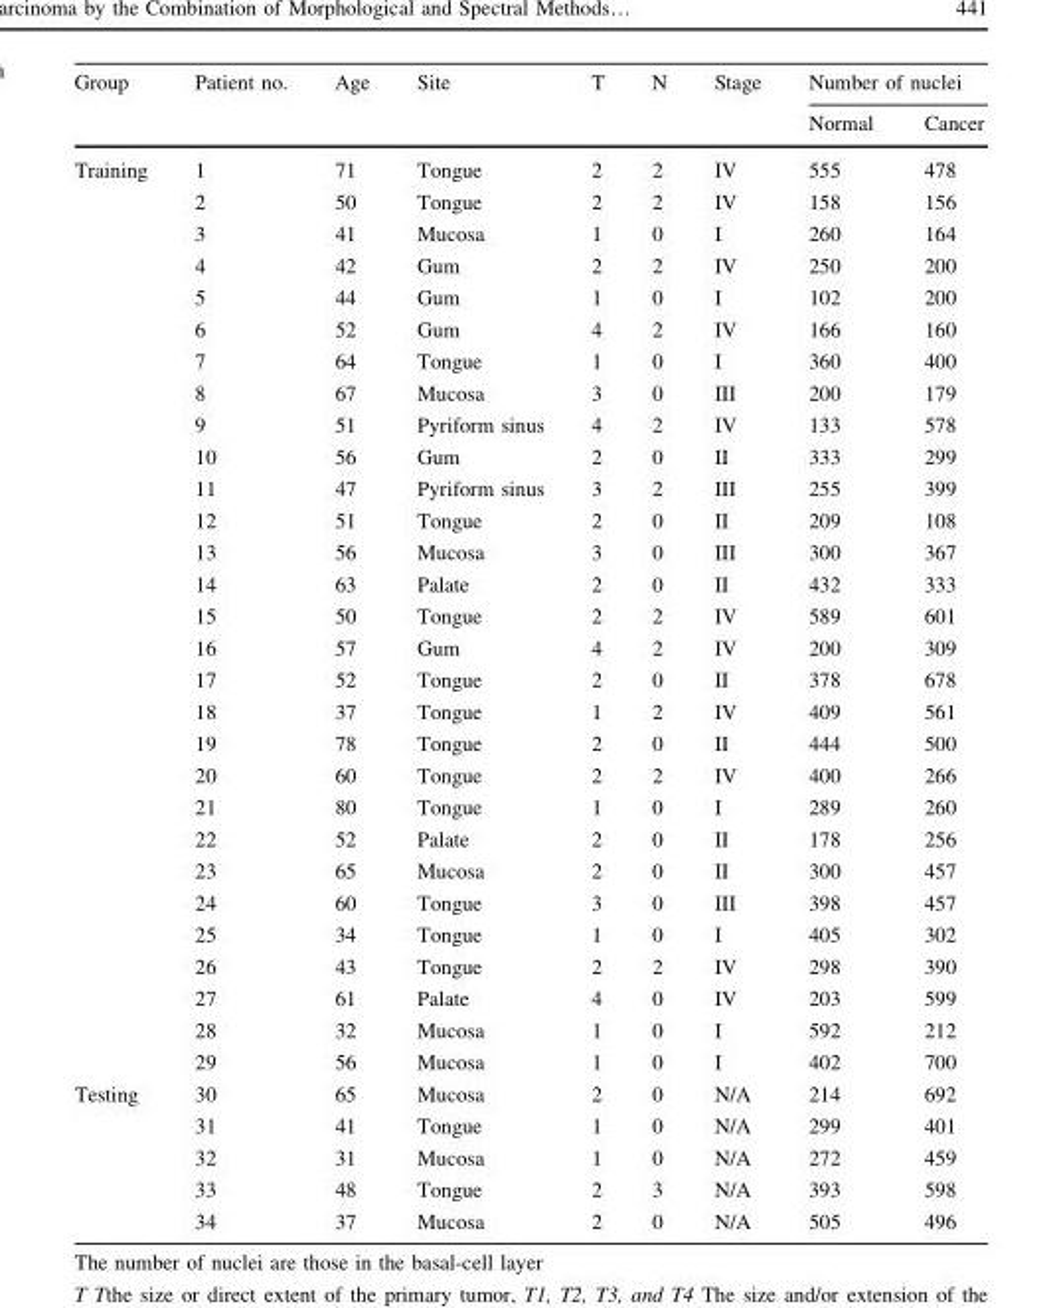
<table><thead><tr><td rowspan="2">Group</td><td rowspan="2">Patient no.</td><td rowspan="2">Age</td><td rowspan="2">Site</td><td rowspan="2">T</td><td rowspan="2">N</td><td rowspan="2">Stage</td><td colspan="2">Number of nuclei</td></tr><tr><td>Normal</td><td>Cancer</td></tr></thead><tbody><tr><td rowspan="29">Training</td><td>1</td><td>71</td><td>Tongue</td><td>2</td><td>2</td><td>IV</td><td>555</td><td>478</td></tr><tr><td>2</td><td>50</td><td>Tongue</td><td>2</td><td>2</td><td>IV</td><td>158</td><td>156</td></tr><tr><td>3</td><td>41</td><td>Mucosa</td><td>1</td><td>0</td><td>I</td><td>260</td><td>164</td></tr><tr><td>4</td><td>42</td><td>Gum</td><td>2</td><td>2</td><td>IV</td><td>250</td><td>200</td></tr><tr><td>5</td><td>44</td><td>Gum</td><td>1</td><td>0</td><td>I</td><td>102</td><td>200</td></tr><tr><td>6</td><td>52</td><td>Gum</td><td>4</td><td>2</td><td>IV</td><td>166</td><td>160</td></tr><tr><td>7</td><td>64</td><td>Tongue</td><td>1</td><td>0</td><td>I</td><td>360</td><td>400</td></tr><tr><td>8</td><td>67</td><td>Mucosa</td><td>3</td><td>0</td><td>III</td><td>200</td><td>179</td></tr><tr><td>9</td><td>51</td><td>Pyriform sinus</td><td>4</td><td>2</td><td>IV</td><td>133</td><td>578</td></tr><tr><td>10</td><td>56</td><td>Gum</td><td>2</td><td>0</td><td>II</td><td>333</td><td>299</td></tr><tr><td>11</td><td>47</td><td>Pyriform sinus</td><td>3</td><td>2</td><td>III</td><td>255</td><td>399</td></tr><tr><td>12</td><td>51</td><td>Tongue</td><td>2</td><td>0</td><td>II</td><td>209</td><td>108</td></tr><tr><td>13</td><td>56</td><td>Mucosa</td><td>3</td><td>0</td><td>III</td><td>300</td><td>367</td></tr><tr><td>14</td><td>63</td><td>Palate</td><td>2</td><td>0</td><td>II</td><td>432</td><td>333</td></tr><tr><td>15</td><td>50</td><td>Tongue</td><td>2</td><td>2</td><td>IV</td><td>589</td><td>601</td></tr><tr><td>16</td><td>57</td><td>Gum</td><td>4</td><td>2</td><td>IV</td><td>200</td><td>309</td></tr><tr><td>17</td><td>52</td><td>Tongue</td><td>2</td><td>0</td><td>II</td><td>378</td><td>678</td></tr><tr><td>18</td><td>37</td><td>Tongue</td><td>1</td><td>2</td><td>IV</td><td>409</td><td>561</td></tr><tr><td>19</td><td>78</td><td>Tongue</td><td>2</td><td>0</td><td>II</td><td>444</td><td>500</td></tr><tr><td>20</td><td>60</td><td>Tongue</td><td>2</td><td>2</td><td>IV</td><td>400</td><td>266</td></tr><tr><td>21</td><td>80</td><td>Tongue</td><td>1</td><td>0</td><td>I</td><td>289</td><td>260</td></tr><tr><td>22</td><td>52</td><td>Palate</td><td>2</td><td>0</td><td>II</td><td>178</td><td>256</td></tr><tr><td>23</td><td>65</td><td>Mucosa</td><td>2</td><td>0</td><td>II</td><td>300</td><td>457</td></tr><tr><td>24</td><td>60</td><td>Tongue</td><td>3</td><td>0</td><td>III</td><td>398</td><td>457</td></tr><tr><td>25</td><td>34</td><td>Tongue</td><td>1</td><td>0</td><td>I</td><td>405</td><td>302</td></tr><tr><td>26</td><td>43</td><td>Tongue</td><td>2</td><td>2</td><td>IV</td><td>298</td><td>390</td></tr><tr><td>27</td><td>61</td><td>Palate</td><td>4</td><td>0</td><td>IV</td><td>203</td><td>599</td></tr><tr><td>28</td><td>32</td><td>Mucosa</td><td>1</td><td>0</td><td>I</td><td>592</td><td>212</td></tr><tr><td>29</td><td>56</td><td>Mucosa</td><td>1</td><td>0</td><td>I</td><td>402</td><td>700</td></tr><tr><td rowspan="5">Testing</td><td>30</td><td>65</td><td>Mucosa</td><td>2</td><td>0</td><td>N/A</td><td>214</td><td>692</td></tr><tr><td>31</td><td>41</td><td>Tongue</td><td>1</td><td>0</td><td>N/A</td><td>299</td><td>401</td></tr><tr><td>32</td><td>31</td><td>Mucosa</td><td>1</td><td>0</td><td>N/A</td><td>272</td><td>459</td></tr><tr><td>33</td><td>48</td><td>Tongue</td><td>2</td><td>3</td><td>N/A</td><td>393</td><td>598</td></tr><tr><td>34</td><td>37</td><td>Mucosa</td><td>2</td><td>0</td><td>N/A</td><td>505</td><td>496</td></tr></tbody></table>